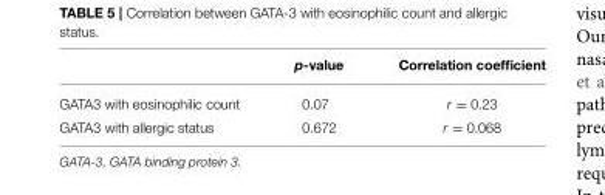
<table><thead><tr><td></td><td>p-value</td><td>Correlation coefficient</td></tr></thead><tbody><tr><td>GATA3 with eosinophilic count</td><td>0.07</td><td>r = 0.23</td></tr><tr><td>GATA3 with allergic status</td><td>0.672</td><td>r = 0.068</td></tr></tbody></table>